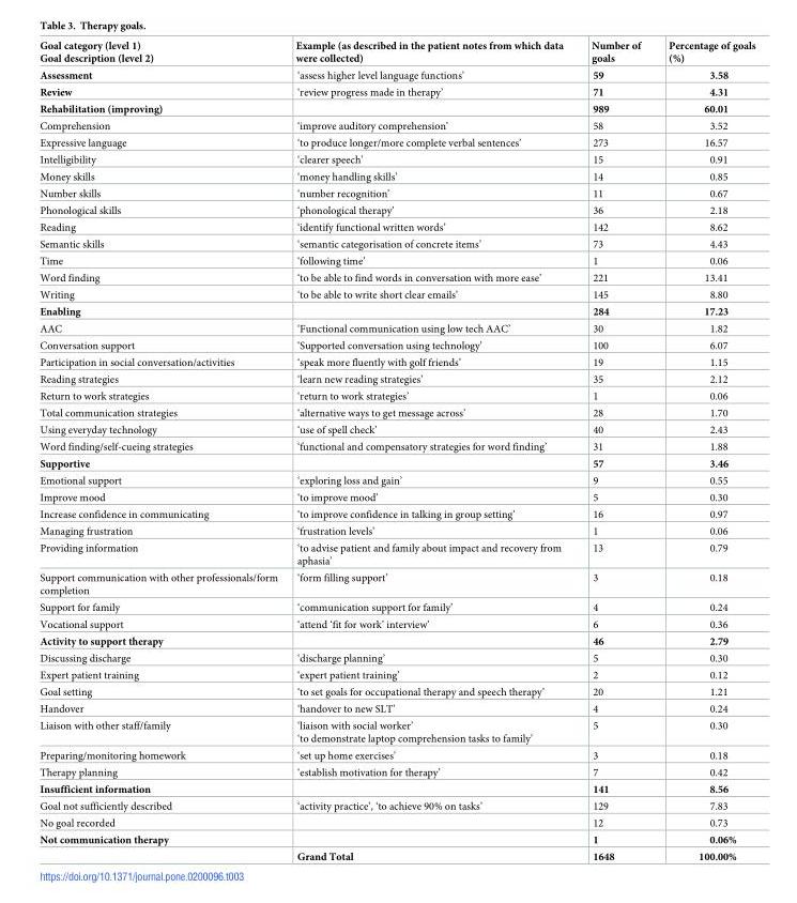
<table><thead><tr><td>Goal category (level 1) Goal description (level 2)</td><td>Example (as described in the patient notes from which data were collected)</td><td>Number of goals</td><td>Percentage of goals (%)</td></tr></thead><tbody><tr><td>Assessment</td><td>‘assess higher level language functions’</td><td>59</td><td>3.58</td></tr><tr><td>Review</td><td>‘review progress made in therapy’</td><td>71</td><td>4.31</td></tr><tr><td>Rehabilitation (improving)</td><td></td><td>989</td><td>60.01</td></tr><tr><td>Comprehension</td><td>‘improve auditory comprehension’</td><td>58</td><td>3.52</td></tr><tr><td>Expressive language</td><td>‘to produce longer/more complete verbal sentences’</td><td>273</td><td>16.57</td></tr><tr><td>Intelligibility</td><td>‘clearer speech’</td><td>15</td><td>0.91</td></tr><tr><td>Money skills</td><td>‘money handling skills’</td><td>14</td><td>0.85</td></tr><tr><td>Number skills</td><td>‘number recognition’</td><td>11</td><td>0.67</td></tr><tr><td>Phonological skills</td><td>‘phonological therapy’</td><td>36</td><td>2.18</td></tr><tr><td>Reading</td><td>‘identify functional written words’</td><td>142</td><td>8.62</td></tr><tr><td>Semantic skills</td><td>‘semantic categorisation of concrete items’</td><td>73</td><td>4.43</td></tr><tr><td>Time</td><td>‘following time’</td><td>1</td><td>0.06</td></tr><tr><td>Word finding</td><td>‘to be able to find words in conversation with more ease’</td><td>221</td><td>13.41</td></tr><tr><td>Writing</td><td>‘to be able to write short clear emails’</td><td>145</td><td>8.80</td></tr><tr><td>Enabling</td><td></td><td>284</td><td>17.23</td></tr><tr><td>AAC</td><td>‘Functional communication using low tech AAC’</td><td>30</td><td>1.82</td></tr><tr><td>Conversation support</td><td>‘Supported conversation using technology’</td><td>100</td><td>6.07</td></tr><tr><td>Participation in social conversation/activities</td><td>‘speak more fluently with golf friends’</td><td>19</td><td>1.15</td></tr><tr><td>Reading strategies</td><td>‘learn new reading strategies’</td><td>35</td><td>2.12</td></tr><tr><td>Return to work strategies</td><td>‘return to work strategies’</td><td>1</td><td>0.06</td></tr><tr><td>Total communication strategies</td><td>‘alternative ways to get message across’</td><td>28</td><td>1.70</td></tr><tr><td>Using everyday technology</td><td>‘use of spell check’</td><td>40</td><td>2.43</td></tr><tr><td>Word finding/self-cueing strategies</td><td>‘functional and compensatory strategies for word finding’</td><td>31</td><td>1.88</td></tr><tr><td>Supportive</td><td></td><td>57</td><td>3.46</td></tr><tr><td>Emotional support</td><td>‘exploring loss and gain’</td><td>9</td><td>0.55</td></tr><tr><td>Improve mood</td><td>‘to improve mood’</td><td>5</td><td>0.30</td></tr><tr><td>Increase confidence in communicating</td><td>‘to improve confidence in talking in group setting’</td><td>16</td><td>0.97</td></tr><tr><td>Managing frustration</td><td>‘frustration levels’</td><td>1</td><td>0.06</td></tr><tr><td>Providing information</td><td>‘to advise patient and family about impact and recovery from aphasia’</td><td>13</td><td>0.79</td></tr><tr><td>Support communication with other professionals/form completion</td><td>‘form filling support’</td><td>3</td><td>0.18</td></tr><tr><td>Support for family</td><td>‘communication support for family’</td><td>4</td><td>0.24</td></tr><tr><td>Vocational support</td><td>‘attend ‘fit for work’ interview’</td><td>6</td><td>0.36</td></tr><tr><td>Activity to support therapy</td><td></td><td>46</td><td>2.79</td></tr><tr><td>Discussing discharge</td><td>‘discharge planning’</td><td>5</td><td>0.30</td></tr><tr><td>Expert patient training</td><td>‘expert patient training’</td><td>2</td><td>0.12</td></tr><tr><td>Goal setting</td><td>‘to set goals for occupational therapy and speech therapy’</td><td>20</td><td>1.21</td></tr><tr><td>Handover</td><td>‘handover to new SLT’</td><td>4</td><td>0.24</td></tr><tr><td>Liaison with other staff/family</td><td>‘liaison with social worker’ ‘to demonstrate laptop comprehension tasks to family’</td><td>5</td><td>0.30</td></tr><tr><td>Preparing/monitoring homework</td><td>‘set up home exercises’</td><td>3</td><td>0.18</td></tr><tr><td>Therapy planning</td><td>‘establish motivation for therapy’</td><td>7</td><td>0.42</td></tr><tr><td>Insufficient information</td><td></td><td>141</td><td>8.56</td></tr><tr><td>Goal not sufficiently described</td><td>‘activity practice’, ‘to achieve 90% on tasks’</td><td>129</td><td>7.83</td></tr><tr><td>No goal recorded</td><td></td><td>12</td><td>0.73</td></tr><tr><td rowspan="2">Not communication therapy</td><td></td><td>1</td><td>0.06%</td></tr><tr><td>Grand Total</td><td>1648</td><td>100.00%</td></tr></tbody></table>